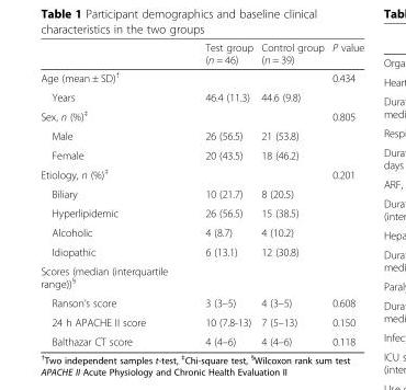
<table><thead><tr><td></td><td>Test group (n = 46)</td><td>Control group (n = 39)</td><td>P value</td></tr></thead><tbody><tr><td>Age (mean ± SD)<sup>†</sup></td><td></td><td></td><td>0.434</td></tr><tr><td>Years</td><td>46.4 (11.3)</td><td>44.6 (9.8)</td><td></td></tr><tr><td>Sex, n (%)<sup>‡</sup></td><td></td><td></td><td>0.805</td></tr><tr><td>Male</td><td>26 (56.5)</td><td>21 (53.8)</td><td></td></tr><tr><td>Female</td><td>20 (43.5)</td><td>18 (46.2)</td><td></td></tr><tr><td>Etiology, n (%)<sup>‡</sup></td><td></td><td></td><td>0.201</td></tr><tr><td>Biliary</td><td>10 (21.7)</td><td>8 (20.5)</td><td></td></tr><tr><td>Hyperlipidemic</td><td>26 (56.5)</td><td>15 (38.5)</td><td></td></tr><tr><td>Alcoholic</td><td>4 (8.7)</td><td>4 (10.2)</td><td></td></tr><tr><td>Idiopathic</td><td>6 (13.1)</td><td>12 (30.8)</td><td></td></tr><tr><td colspan="4">Scores (median (interquartile range))<sup>§</sup></td></tr><tr><td>Ranson’s score</td><td>3 (3–5)</td><td>4 (3–5)</td><td>0.608</td></tr><tr><td>24 h APACHE II score</td><td>10 (7.8-13)</td><td>7 (5–13)</td><td>0.150</td></tr><tr><td>Balthazar CT score</td><td>4 (4–6)</td><td>4 (4–6)</td><td>0.118</td></tr></tbody></table>